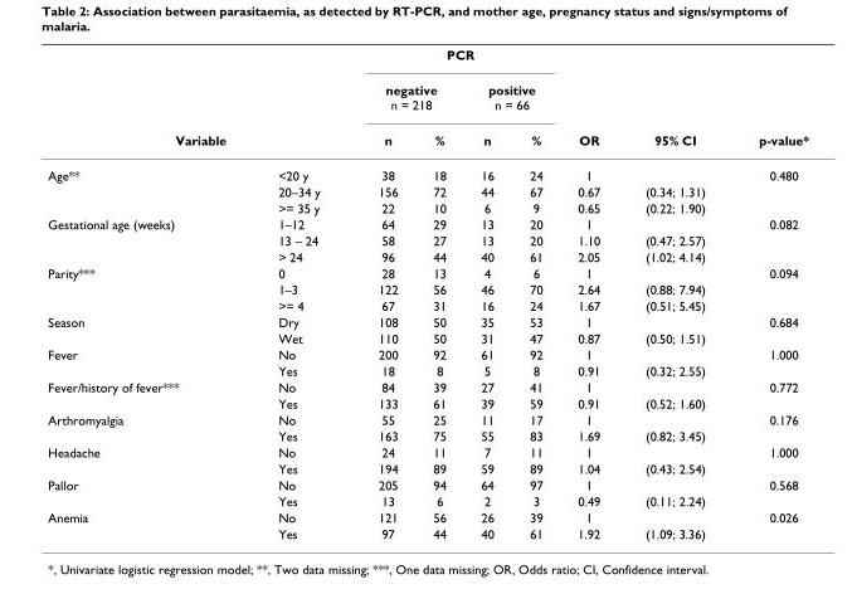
<table><thead><tr><td rowspan="2"></td><td rowspan="2"></td><td colspan="4">PCR</td><td rowspan="3">OR</td><td rowspan="3">95% CI</td><td rowspan="3">p-value*</td></tr><tr><td colspan="2">negative n = 218</td><td colspan="2">positive n = 66</td></tr><tr><td colspan="2">Variable</td><td>n</td><td>%</td><td>n</td><td>%</td></tr></thead><tbody><tr><td rowspan="3">Age**</td><td>&lt;20 y</td><td>38</td><td>18</td><td>16</td><td>24</td><td>1</td><td></td><td>0.480</td></tr><tr><td>20–34 y</td><td>156</td><td>72</td><td>44</td><td>67</td><td>0.67</td><td>(0.34; 1.31)</td><td></td></tr><tr><td>&gt;= 35 y</td><td>22</td><td>10</td><td>6</td><td>9</td><td>0.65</td><td>(0.22; 1.90)</td><td></td></tr><tr><td rowspan="3">Gestational age (weeks)</td><td>1–12</td><td>64</td><td>29</td><td>13</td><td>20</td><td>1</td><td></td><td>0.082</td></tr><tr><td>13 – 24</td><td>58</td><td>27</td><td>13</td><td>20</td><td>1.10</td><td>(0.47; 2.57)</td><td></td></tr><tr><td>&gt; 24</td><td>96</td><td>44</td><td>40</td><td>61</td><td>2.05</td><td>(1.02; 4.14)</td><td></td></tr><tr><td rowspan="3">Parity***</td><td>0</td><td>28</td><td>13</td><td>4</td><td>6</td><td>1</td><td></td><td>0.094</td></tr><tr><td>1–3</td><td>122</td><td>56</td><td>46</td><td>70</td><td>2.64</td><td>(0.88; 7.94)</td><td></td></tr><tr><td>&gt;= 4</td><td>67</td><td>31</td><td>16</td><td>24</td><td>1.67</td><td>(0.51; 5.45)</td><td></td></tr><tr><td rowspan="2">Season</td><td>Dry</td><td>108</td><td>50</td><td>35</td><td>53</td><td>1</td><td></td><td>0.684</td></tr><tr><td>Wet</td><td>110</td><td>50</td><td>31</td><td>47</td><td>0.87</td><td>(0.50; 1.51)</td><td></td></tr><tr><td rowspan="2">Fever</td><td>No</td><td>200</td><td>92</td><td>61</td><td>92</td><td>1</td><td></td><td>1.000</td></tr><tr><td>Yes</td><td>18</td><td>8</td><td>5</td><td>8</td><td>0.91</td><td>(0.32; 2.55)</td><td></td></tr><tr><td rowspan="2">Fever/history of fever***</td><td>No</td><td>84</td><td>39</td><td>27</td><td>41</td><td>1</td><td></td><td>0.772</td></tr><tr><td>Yes</td><td>133</td><td>61</td><td>39</td><td>59</td><td>0.91</td><td>(0.52; 1.60)</td><td></td></tr><tr><td rowspan="2">Arthromyalgia</td><td>No</td><td>55</td><td>25</td><td>11</td><td>17</td><td>1</td><td></td><td>0.176</td></tr><tr><td>Yes</td><td>163</td><td>75</td><td>55</td><td>83</td><td>1.69</td><td>(0.82; 3.45)</td><td></td></tr><tr><td rowspan="2">Headache</td><td>No</td><td>24</td><td>11</td><td>7</td><td>11</td><td>1</td><td></td><td>1.000</td></tr><tr><td>Yes</td><td>194</td><td>89</td><td>59</td><td>89</td><td>1.04</td><td>(0.43; 2.54)</td><td></td></tr><tr><td rowspan="2">Pallor</td><td>No</td><td>205</td><td>94</td><td>64</td><td>97</td><td>1</td><td></td><td>0.568</td></tr><tr><td>Yes</td><td>13</td><td>6</td><td>2</td><td>3</td><td>0.49</td><td>(0.11; 2.24)</td><td></td></tr><tr><td rowspan="2">Anemia</td><td>No</td><td>121</td><td>56</td><td>26</td><td>39</td><td>1</td><td></td><td>0.026</td></tr><tr><td>Yes</td><td>97</td><td>44</td><td>40</td><td>61</td><td>1.92</td><td>(1.09; 3.36)</td><td></td></tr></tbody></table>